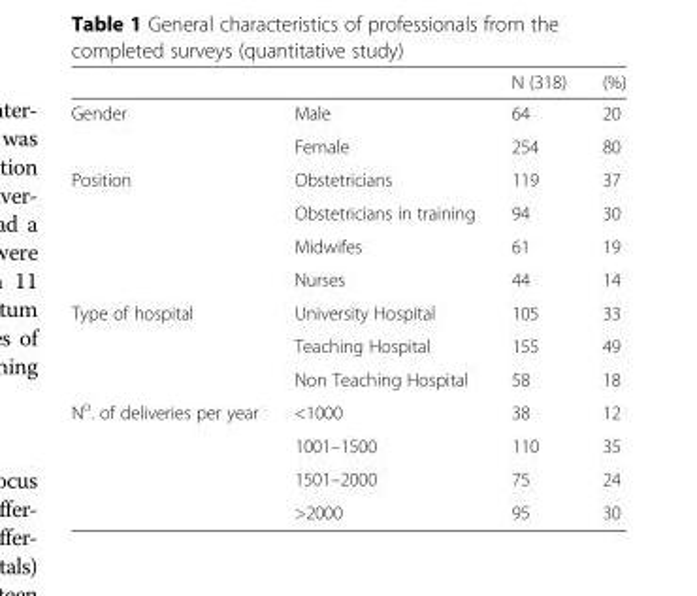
<table><thead><tr><td></td><td></td><td>N (318)</td><td>(%)</td></tr></thead><tbody><tr><td rowspan="2">Gender</td><td>Male</td><td>64</td><td>20</td></tr><tr><td>Female</td><td>254</td><td>80</td></tr><tr><td rowspan="4">Position</td><td>Obstetricians</td><td>119</td><td>37</td></tr><tr><td>Obstetricians in training</td><td>94</td><td>30</td></tr><tr><td>Midwifes</td><td>61</td><td>19</td></tr><tr><td>Nurses</td><td>44</td><td>14</td></tr><tr><td rowspan="3">Type of hospital</td><td>University Hospital</td><td>105</td><td>33</td></tr><tr><td>Teaching Hospital</td><td>155</td><td>49</td></tr><tr><td>Non Teaching Hospital</td><td>58</td><td>18</td></tr><tr><td rowspan="4">N<sup>o</sup>. of deliveries per year</td><td>&lt;1000</td><td>38</td><td>12</td></tr><tr><td>1001–1500</td><td>110</td><td>35</td></tr><tr><td>1501–2000</td><td>75</td><td>24</td></tr><tr><td>&gt;2000</td><td>95</td><td>30</td></tr></tbody></table>